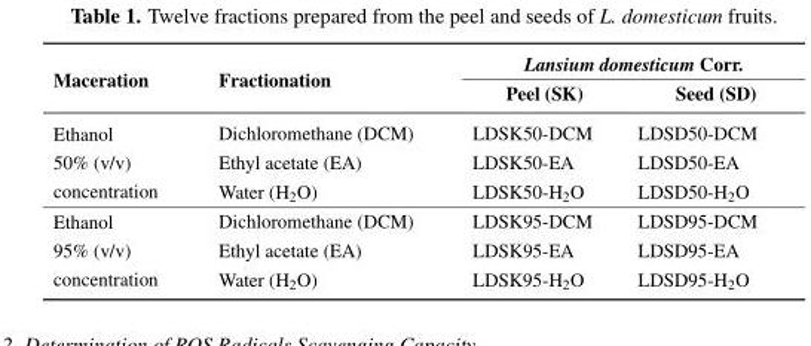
<table><thead><tr><td rowspan="2">Maceration</td><td rowspan="2">Fractionation</td><td colspan="2">Lansium domesticum Corr.</td></tr><tr><td>Peel (SK)</td><td>Seed (SD)</td></tr></thead><tbody><tr><td rowspan="3">Ethanol 50% (v/v) concentration</td><td>Dichloromethane (DCM)</td><td>LDSK50-DCM</td><td>LDSD50-DCM</td></tr><tr><td>Ethyl acetate (EA)</td><td>LDSK50-EA</td><td>LDSD50-EA</td></tr><tr><td>Water (H<sub>2</sub>O)</td><td>LDSK50-H<sub>2</sub>O</td><td>LDSD50-H<sub>2</sub>O</td></tr><tr><td rowspan="3">Ethanol 95% (v/v) concentration</td><td>Dichloromethane (DCM)</td><td>LDSK95-DCM</td><td>LDSD95-DCM</td></tr><tr><td>Ethyl acetate (EA)</td><td>LDSK95-EA</td><td>LDSD95-EA</td></tr><tr><td>Water (H<sub>2</sub>O)</td><td>LDSK95-H<sub>2</sub>O</td><td>LDSD95-H<sub>2</sub>O</td></tr></tbody></table>